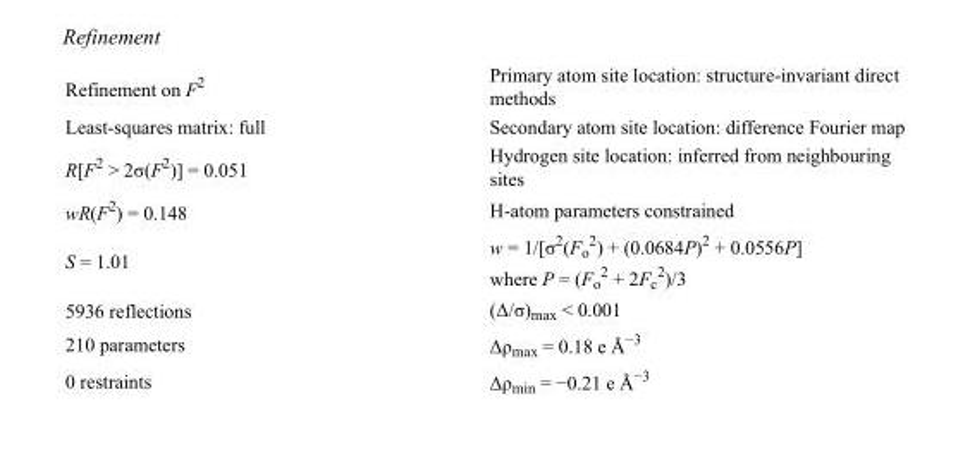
<table><tbody><tr><td>Refinement on F<sup>2</sup></td><td>Primary atom site location: structure-invariant direct methods</td></tr><tr><td>Least-squares matrix: full</td><td>Secondary atom site location: difference Fourier map</td></tr><tr><td>R[F<sup>2</sup> &gt; 2σ(F<sup>2</sup>)] = 0.051</td><td>Hydrogen site location: inferred from neighbouring sites</td></tr><tr><td>wR(F<sup>2</sup>) = 0.148</td><td>H-atom parameters constrained</td></tr><tr><td>S = 1.01</td><td>w = 1/[σ<sup>2</sup>(F<sub>o</sub> <sup>2</sup>) + (0.0684P)<sup>2</sup> + 0.0556P] where P = (F<sub>o</sub> <sup>2</sup> + 2F<sub>c</sub> <sup>2</sup>)/3</td></tr><tr><td>5936 reflections</td><td>(Δ/σ)<sub>max</sub> &lt; 0.001</td></tr><tr><td>210 parameters</td><td>Δρ<sub>max</sub> = 0.18 e Å<sup>−3</sup></td></tr><tr><td>0 restraints</td><td>Δρ<sub>min</sub> = −0.21 e Å<sup>−3</sup></td></tr></tbody></table>